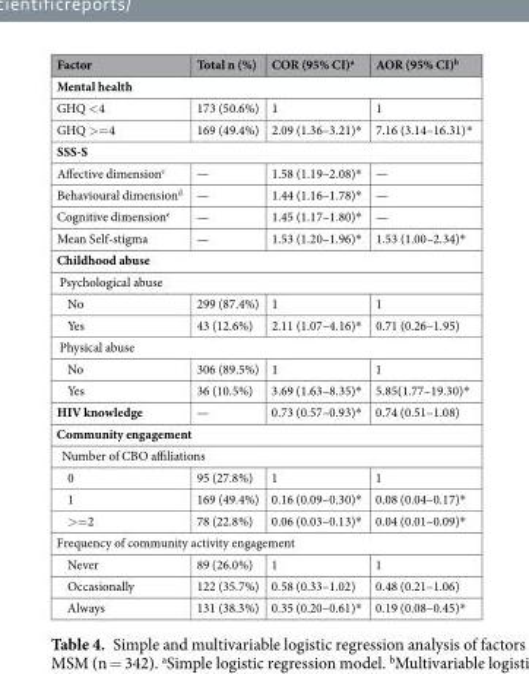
<table><thead><tr><td>Factor</td><td>Total n (%)</td><td>COR (95% CI)<sup>a</sup></td><td>AOR (95% CI)<sup>b</sup></td></tr></thead><tbody><tr><td colspan="4">Mental health</td></tr><tr><td>GHQ &lt;4</td><td>173 (50.6%)</td><td>1</td><td>1</td></tr><tr><td>GHQ &gt;=4</td><td>169 (49.4%)</td><td>2.09 (1.36–3.21)*</td><td>7.16 (3.14–16.31)*</td></tr><tr><td colspan="4">SSS-S</td></tr><tr><td>Affective dimension<sup>c</sup></td><td>—</td><td>1.58 (1.19–2.08)*</td><td>—</td></tr><tr><td>Behavioural dimension<sup>d</sup></td><td>—</td><td>1.44 (1.16–1.78)*</td><td>—</td></tr><tr><td>Cognitive dimension<sup>e</sup></td><td>—</td><td>1.45 (1.17–1.80)*</td><td>—</td></tr><tr><td>Mean Self-stigma</td><td>—</td><td>1.53 (1.20–1.96)*</td><td>1.53 (1.00–2.34)*</td></tr><tr><td colspan="4">Childhood abuse</td></tr><tr><td colspan="4">Psychological abuse</td></tr><tr><td>No</td><td>299 (87.4%)</td><td>1</td><td>1</td></tr><tr><td>Yes</td><td>43 (12.6%)</td><td>2.11 (1.07–4.16)*</td><td>0.71 (0.26–1.95)</td></tr><tr><td colspan="4">Physical abuse</td></tr><tr><td>No</td><td>306 (89.5%)</td><td>1</td><td>1</td></tr><tr><td>Yes</td><td>36 (10.5%)</td><td>3.69 (1.63–8.35)*</td><td>5.85(1.77–19.30)*</td></tr><tr><td>HIV knowledge</td><td>—</td><td>0.73 (0.57–0.93)*</td><td>0.74 (0.51–1.08)</td></tr><tr><td colspan="4">Community engagement</td></tr><tr><td colspan="4">Number of CBO affiliations</td></tr><tr><td>0</td><td>95 (27.8%)</td><td>1</td><td>1</td></tr><tr><td>1</td><td>169 (49.4%)</td><td>0.16 (0.09–0.30)*</td><td>0.08 (0.04–0.17)*</td></tr><tr><td>&gt;=2</td><td>78 (22.8%)</td><td>0.06 (0.03–0.13)*</td><td>0.04 (0.01–0.09)*</td></tr><tr><td colspan="4">Frequency of community activity engagement</td></tr><tr><td>Never</td><td>89 (26.0%)</td><td>1</td><td>1</td></tr><tr><td>Occasionally</td><td>122 (35.7%)</td><td>0.58 (0.33–1.02)</td><td>0.48 (0.21–1.06)</td></tr><tr><td>Always</td><td>131 (38.3%)</td><td>0.35 (0.20–0.61)*</td><td>0.19 (0.08–0.45)*</td></tr></tbody></table>